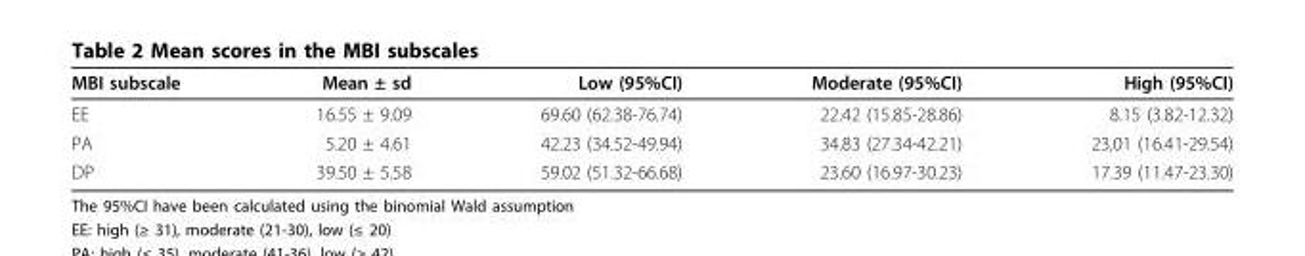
<table><thead><tr><td>MBI subscale</td><td>Mean ± sd</td><td>Low (95%CI)</td><td>Moderate (95%CI)</td><td>High (95%CI)</td></tr></thead><tbody><tr><td>EE</td><td>16.55 ± 9.09</td><td>69.60 (62.38-76.74)</td><td>22.42 (15.85-28.86)</td><td>8.15 (3.82-12.32)</td></tr><tr><td>PA</td><td>5.20 ± 4.61</td><td>42.23 (34.52-49.94)</td><td>34.83 (27.34-42.21)</td><td>23,01 (16.41-29.54)</td></tr><tr><td>DP</td><td>39.50 ± 5.58</td><td>59.02 (51.32-66.68)</td><td>23.60 (16.97-30.23)</td><td>17.39 (11.47-23.30)</td></tr></tbody></table>